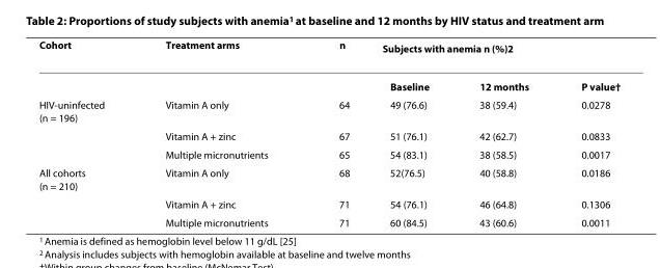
<table><thead><tr><td rowspan="2">Cohort</td><td rowspan="2">Treatment arms</td><td rowspan="2">n</td><td colspan="3">Subjects with anemia n (%)<sup>2</sup></td></tr><tr><td>Baseline</td><td>12 months</td><td>P value†</td></tr></thead><tbody><tr><td rowspan="3">HIV-uninfected (n = 196)</td><td>Vitamin A only</td><td>64</td><td>49 (76.6)</td><td>38 (59.4)</td><td>0.0278</td></tr><tr><td>Vitamin A + zinc</td><td>67</td><td>51 (76.1)</td><td>42 (62.7)</td><td>0.0833</td></tr><tr><td>Multiple micronutrients</td><td>65</td><td>54 (83.1)</td><td>38 (58.5)</td><td>0.0017</td></tr><tr><td rowspan="3">All cohorts (n = 210)</td><td>Vitamin A only</td><td>68</td><td>52(76.5)</td><td>40 (58.8)</td><td>0.0186</td></tr><tr><td>Vitamin A + zinc</td><td>71</td><td>54 (76.1)</td><td>46 (64.8)</td><td>0.1306</td></tr><tr><td>Multiple micronutrients</td><td>71</td><td>60 (84.5)</td><td>43 (60.6)</td><td>0.0011</td></tr></tbody></table>